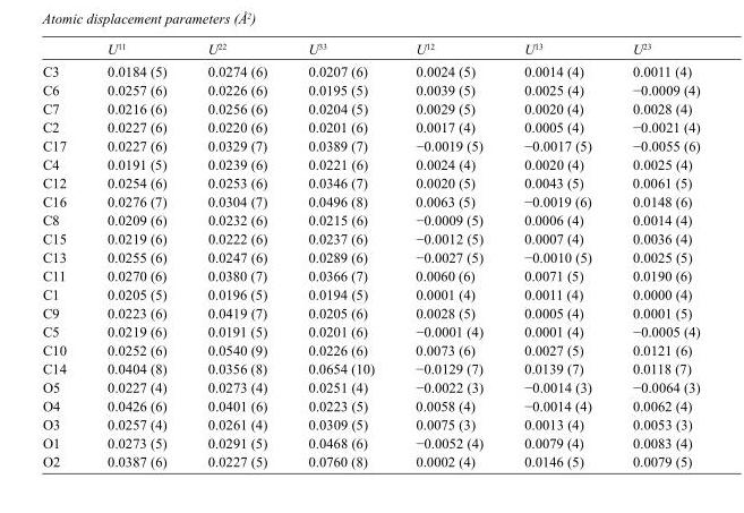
<table><thead><tr><td></td><td>U<sup>11</sup></td><td>U<sup>22</sup></td><td>U<sup>33</sup></td><td>U<sup>12</sup></td><td>U<sup>13</sup></td><td>U<sup>23</sup></td></tr></thead><tbody><tr><td>C3</td><td>0.0184 (5)</td><td>0.0274 (6)</td><td>0.0207 (6)</td><td>0.0024 (5)</td><td>0.0014 (4)</td><td>0.0011 (4)</td></tr><tr><td>C6</td><td>0.0257 (6)</td><td>0.0226 (6)</td><td>0.0195 (5)</td><td>0.0039 (5)</td><td>0.0025 (4)</td><td>−0.0009 (4)</td></tr><tr><td>C7</td><td>0.0216 (6)</td><td>0.0256 (6)</td><td>0.0204 (5)</td><td>0.0029 (5)</td><td>0.0020 (4)</td><td>0.0028 (4)</td></tr><tr><td>C2</td><td>0.0227 (6)</td><td>0.0220 (6)</td><td>0.0201 (6)</td><td>0.0017 (4)</td><td>0.0005 (4)</td><td>−0.0021 (4)</td></tr><tr><td>C17</td><td>0.0227 (6)</td><td>0.0329 (7)</td><td>0.0389 (7)</td><td>−0.0019 (5)</td><td>−0.0017 (5)</td><td>−0.0055 (6)</td></tr><tr><td>C4</td><td>0.0191 (5)</td><td>0.0239 (6)</td><td>0.0221 (6)</td><td>0.0024 (4)</td><td>0.0020 (4)</td><td>0.0025 (4)</td></tr><tr><td>C12</td><td>0.0254 (6)</td><td>0.0253 (6)</td><td>0.0346 (7)</td><td>0.0020 (5)</td><td>0.0043 (5)</td><td>0.0061 (5)</td></tr><tr><td>C16</td><td>0.0276 (7)</td><td>0.0304 (7)</td><td>0.0496 (8)</td><td>0.0063 (5)</td><td>−0.0019 (6)</td><td>0.0148 (6)</td></tr><tr><td>C8</td><td>0.0209 (6)</td><td>0.0232 (6)</td><td>0.0215 (6)</td><td>−0.0009 (5)</td><td>0.0006 (4)</td><td>0.0014 (4)</td></tr><tr><td>C15</td><td>0.0219 (6)</td><td>0.0222 (6)</td><td>0.0237 (6)</td><td>−0.0012 (5)</td><td>0.0007 (4)</td><td>0.0036 (4)</td></tr><tr><td>C13</td><td>0.0255 (6)</td><td>0.0247 (6)</td><td>0.0289 (6)</td><td>−0.0027 (5)</td><td>−0.0010 (5)</td><td>0.0025 (5)</td></tr><tr><td>C11</td><td>0.0270 (6)</td><td>0.0380 (7)</td><td>0.0366 (7)</td><td>0.0060 (6)</td><td>0.0071 (5)</td><td>0.0190 (6)</td></tr><tr><td>C1</td><td>0.0205 (5)</td><td>0.0196 (5)</td><td>0.0194 (5)</td><td>0.0001 (4)</td><td>0.0011 (4)</td><td>0.0000 (4)</td></tr><tr><td>C9</td><td>0.0223 (6)</td><td>0.0419 (7)</td><td>0.0205 (6)</td><td>0.0028 (5)</td><td>0.0005 (4)</td><td>0.0001 (5)</td></tr><tr><td>C5</td><td>0.0219 (6)</td><td>0.0191 (5)</td><td>0.0201 (6)</td><td>−0.0001 (4)</td><td>0.0001 (4)</td><td>−0.0005 (4)</td></tr><tr><td>C10</td><td>0.0252 (6)</td><td>0.0540 (9)</td><td>0.0226 (6)</td><td>0.0073 (6)</td><td>0.0027 (5)</td><td>0.0121 (6)</td></tr><tr><td>C14</td><td>0.0404 (8)</td><td>0.0356 (8)</td><td>0.0654 (10)</td><td>−0.0129 (7)</td><td>0.0139 (7)</td><td>0.0118 (7)</td></tr><tr><td>O5</td><td>0.0227 (4)</td><td>0.0273 (4)</td><td>0.0251 (4)</td><td>−0.0022 (3)</td><td>−0.0014 (3)</td><td>−0.0064 (3)</td></tr><tr><td>O4</td><td>0.0426 (6)</td><td>0.0401 (6)</td><td>0.0223 (5)</td><td>0.0058 (4)</td><td>−0.0014 (4)</td><td>0.0062 (4)</td></tr><tr><td>O3</td><td>0.0257 (4)</td><td>0.0261 (4)</td><td>0.0309 (5)</td><td>0.0075 (3)</td><td>0.0013 (4)</td><td>0.0053 (3)</td></tr><tr><td>O1</td><td>0.0273 (5)</td><td>0.0291 (5)</td><td>0.0468 (6)</td><td>−0.0052 (4)</td><td>0.0079 (4)</td><td>0.0083 (4)</td></tr><tr><td>O2</td><td>0.0387 (6)</td><td>0.0227 (5)</td><td>0.0760 (8)</td><td>0.0002 (4)</td><td>0.0146 (5)</td><td>0.0079 (5)</td></tr></tbody></table>